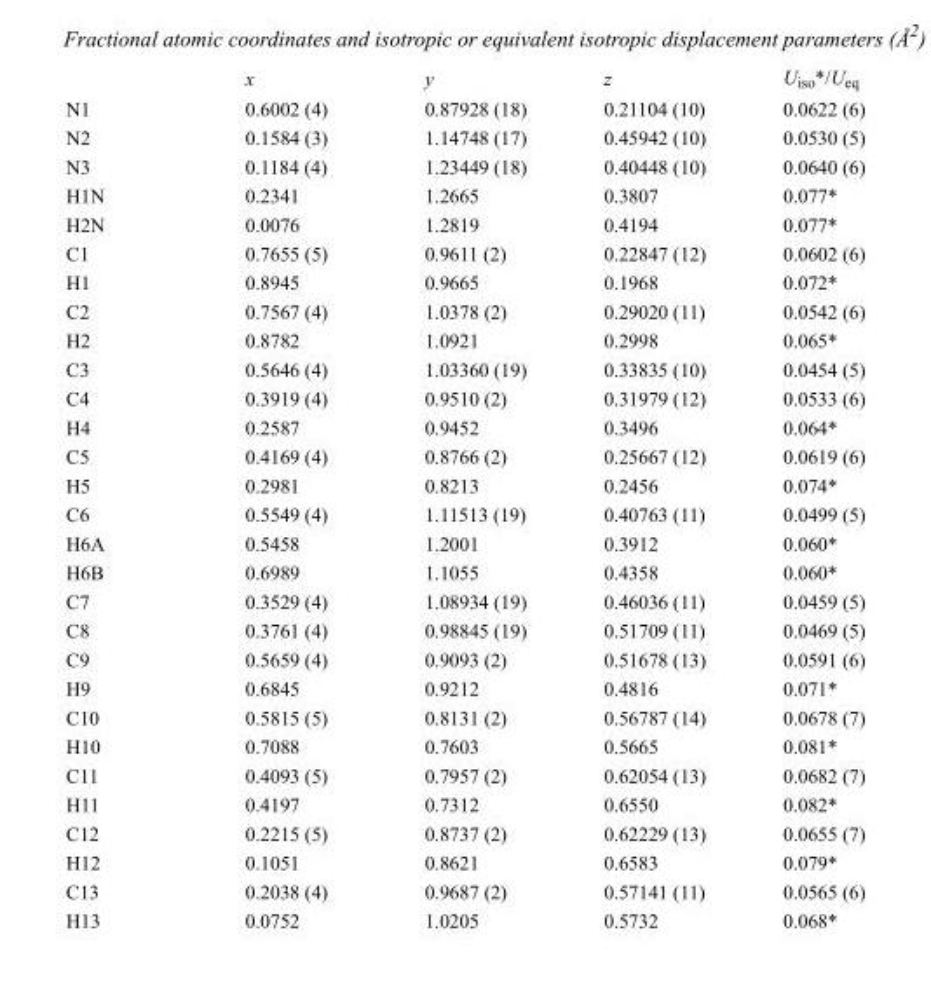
<table><thead><tr><td></td><td>x</td><td>y</td><td>z</td><td>U<sub>iso</sub>*/U<sub>eq</sub></td></tr></thead><tbody><tr><td>N1</td><td>0.6002 (4)</td><td>0.87928 (18)</td><td>0.21104 (10)</td><td>0.0622 (6)</td></tr><tr><td>N2</td><td>0.1584 (3)</td><td>1.14748 (17)</td><td>0.45942 (10)</td><td>0.0530 (5)</td></tr><tr><td>N3</td><td>0.1184 (4)</td><td>1.23449 (18)</td><td>0.40448 (10)</td><td>0.0640 (6)</td></tr><tr><td>H1N</td><td>0.2341</td><td>1.2665</td><td>0.3807</td><td>0.077*</td></tr><tr><td>H2N</td><td>0.0076</td><td>1.2819</td><td>0.4194</td><td>0.077*</td></tr><tr><td>C1</td><td>0.7655 (5)</td><td>0.9611 (2)</td><td>0.22847 (12)</td><td>0.0602 (6)</td></tr><tr><td>H1</td><td>0.8945</td><td>0.9665</td><td>0.1968</td><td>0.072*</td></tr><tr><td>C2</td><td>0.7567 (4)</td><td>1.0378 (2)</td><td>0.29020 (11)</td><td>0.0542 (6)</td></tr><tr><td>H2</td><td>0.8782</td><td>1.0921</td><td>0.2998</td><td>0.065*</td></tr><tr><td>C3</td><td>0.5646 (4)</td><td>1.03360 (19)</td><td>0.33835 (10)</td><td>0.0454 (5)</td></tr><tr><td>C4</td><td>0.3919 (4)</td><td>0.9510 (2)</td><td>0.31979 (12)</td><td>0.0533 (6)</td></tr><tr><td>H4</td><td>0.2587</td><td>0.9452</td><td>0.3496</td><td>0.064*</td></tr><tr><td>C5</td><td>0.4169 (4)</td><td>0.8766 (2)</td><td>0.25667 (12)</td><td>0.0619 (6)</td></tr><tr><td>H5</td><td>0.2981</td><td>0.8213</td><td>0.2456</td><td>0.074*</td></tr><tr><td>C6</td><td>0.5549 (4)</td><td>1.11513 (19)</td><td>0.40763 (11)</td><td>0.0499 (5)</td></tr><tr><td>H6A</td><td>0.5458</td><td>1.2001</td><td>0.3912</td><td>0.060*</td></tr><tr><td>H6B</td><td>0.6989</td><td>1.1055</td><td>0.4358</td><td>0.060*</td></tr><tr><td>C7</td><td>0.3529 (4)</td><td>1.08934 (19)</td><td>0.46036 (11)</td><td>0.0459 (5)</td></tr><tr><td>C8</td><td>0.3761 (4)</td><td>0.98845 (19)</td><td>0.51709 (11)</td><td>0.0469 (5)</td></tr><tr><td>C9</td><td>0.5659 (4)</td><td>0.9093 (2)</td><td>0.51678 (13)</td><td>0.0591 (6)</td></tr><tr><td>H9</td><td>0.6845</td><td>0.9212</td><td>0.4816</td><td>0.071*</td></tr><tr><td>C10</td><td>0.5815 (5)</td><td>0.8131 (2)</td><td>0.56787 (14)</td><td>0.0678 (7)</td></tr><tr><td>H10</td><td>0.7088</td><td>0.7603</td><td>0.5665</td><td>0.081*</td></tr><tr><td>C11</td><td>0.4093 (5)</td><td>0.7957 (2)</td><td>0.62054 (13)</td><td>0.0682 (7)</td></tr><tr><td>H11</td><td>0.4197</td><td>0.7312</td><td>0.6550</td><td>0.082*</td></tr><tr><td>C12</td><td>0.2215 (5)</td><td>0.8737 (2)</td><td>0.62229 (13)</td><td>0.0655 (7)</td></tr><tr><td>H12</td><td>0.1051</td><td>0.8621</td><td>0.6583</td><td>0.079*</td></tr><tr><td>C13</td><td>0.2038 (4)</td><td>0.9687 (2)</td><td>0.57141 (11)</td><td>0.0565 (6)</td></tr><tr><td>H13</td><td>0.0752</td><td>1.0205</td><td>0.5732</td><td>0.068*</td></tr></tbody></table>